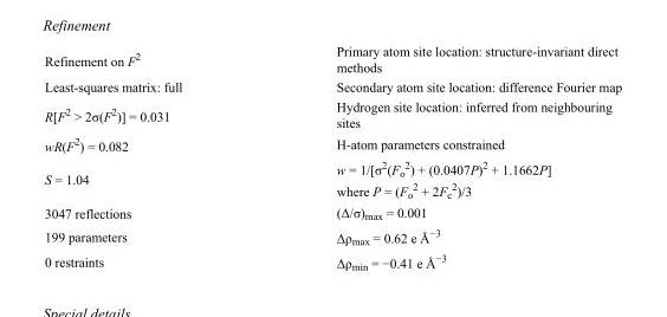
<table><tbody><tr><td>Refinement on F<sup>2</sup></td><td>Primary atom site location: structure-invariant direct methods</td></tr><tr><td>Least-squares matrix: full</td><td>Secondary atom site location: difference Fourier map</td></tr><tr><td>R[F<sup>2</sup> &gt; 2σ(F<sup>2</sup>)] = 0.031</td><td>Hydrogen site location: inferred from neighbouring sites</td></tr><tr><td>wR(F<sup>2</sup>) = 0.082</td><td>H-atom parameters constrained</td></tr><tr><td>S = 1.04</td><td>w = 1/[σ<sup>2</sup>(F<sub>o</sub> <sup>2</sup>) + (0.0407P)<sup>2</sup> + 1.1662P] where P = (F<sub>o</sub> <sup>2</sup> + 2F<sub>c</sub> <sup>2</sup>)/3</td></tr><tr><td>3047 reflections</td><td>(Δ/σ)<sub>max</sub> = 0.001</td></tr><tr><td>199 parameters</td><td>Δρ<sub>max</sub> = 0.62 e Å<sup>−3</sup></td></tr><tr><td>0 restraints</td><td>Δρ<sub>min</sub> = −0.41 e Å<sup>−3</sup></td></tr></tbody></table>